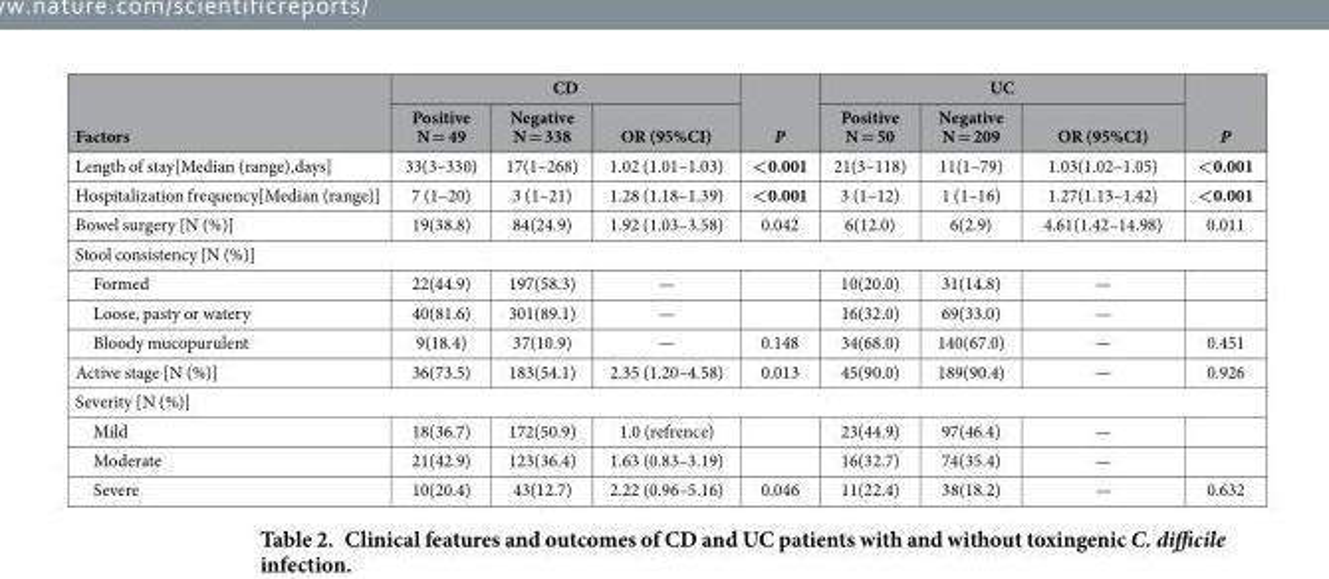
<table><thead><tr><td rowspan="2">Factors</td><td colspan="3">CD</td><td rowspan="2">P</td><td colspan="3">UC</td><td rowspan="2">P</td></tr><tr><td>Positive N = 49</td><td>Negative N = 338</td><td>OR (95%CI)</td><td>Positive N = 50</td><td>Negative N = 209</td><td>OR (95%CI)</td></tr></thead><tbody><tr><td>Length of stay[Median (range),days]</td><td>33(3–330)</td><td>17(1–268)</td><td>1.02 (1.01–1.03)</td><td>&lt;0.001</td><td>21(3–118)</td><td>11(1–79)</td><td>1.03(1.02–1.05)</td><td>&lt;0.001</td></tr><tr><td>Hospitalization frequency[Median (range)]</td><td>7 (1–20)</td><td>3 (1–21)</td><td>1.28 (1.18–1.39)</td><td>&lt;0.001</td><td>3 (1–12)</td><td>1 (1–16)</td><td>1.27(1.13–1.42)</td><td>&lt;0.001</td></tr><tr><td>Bowel surgery [N (%)]</td><td>19(38.8)</td><td>84(24.9)</td><td>1.92 (1.03–3.58)</td><td>0.042</td><td>6(12.0)</td><td>6(2.9)</td><td>4.61(1.42–14.98)</td><td>0.011</td></tr><tr><td colspan="9">Stool consistency [N (%)]</td></tr><tr><td>Formed</td><td>22(44.9)</td><td>197(58.3)</td><td>—</td><td></td><td>10(20.0)</td><td>31(14.8)</td><td>—</td><td></td></tr><tr><td>Loose, pasty or watery</td><td>40(81.6)</td><td>301(89.1)</td><td>—</td><td></td><td>16(32.0)</td><td>69(33.0)</td><td>—</td><td></td></tr><tr><td>Bloody mucopurulent</td><td>9(18.4)</td><td>37(10.9)</td><td>—</td><td>0.148</td><td>34(68.0)</td><td>140(67.0)</td><td>—</td><td>0.451</td></tr><tr><td>Active stage [N (%)]</td><td>36(73.5)</td><td>183(54.1)</td><td>2.35 (1.20–4.58)</td><td>0.013</td><td>45(90.0)</td><td>189(90.4)</td><td>—</td><td>0.926</td></tr><tr><td colspan="9">Severity [N (%)]</td></tr><tr><td>Mild</td><td>18(36.7)</td><td>172(50.9)</td><td>1.0 (refrence)</td><td></td><td>23(44.9)</td><td>97(46.4)</td><td>—</td><td></td></tr><tr><td>Moderate</td><td>21(42.9)</td><td>123(36.4)</td><td>1.63 (0.83–3.19)</td><td></td><td>16(32.7)</td><td>74(35.4)</td><td>—</td><td></td></tr><tr><td>Severe</td><td>10(20.4)</td><td>43(12.7)</td><td>2.22 (0.96–5.16)</td><td>0.046</td><td>11(22.4)</td><td>38(18.2)</td><td>—</td><td>0.632</td></tr></tbody></table>